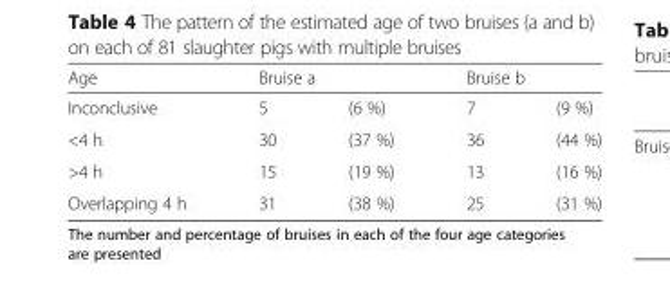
<table><thead><tr><td rowspan="2">Age Inconclusive</td><td colspan="2">Bruise a</td><td colspan="2">Bruise b</td></tr><tr><td>5</td><td>(6 %)</td><td>7</td><td>(9 %)</td></tr></thead><tbody><tr><td>&lt;4 h</td><td>30</td><td>(37 %)</td><td>36</td><td>(44 %)</td></tr><tr><td>&gt;4 h</td><td>15</td><td>(19 %)</td><td>13</td><td>(16 %)</td></tr><tr><td>Overlapping 4 h</td><td>31</td><td>(38 %)</td><td>25</td><td>(31 %)</td></tr></tbody></table>